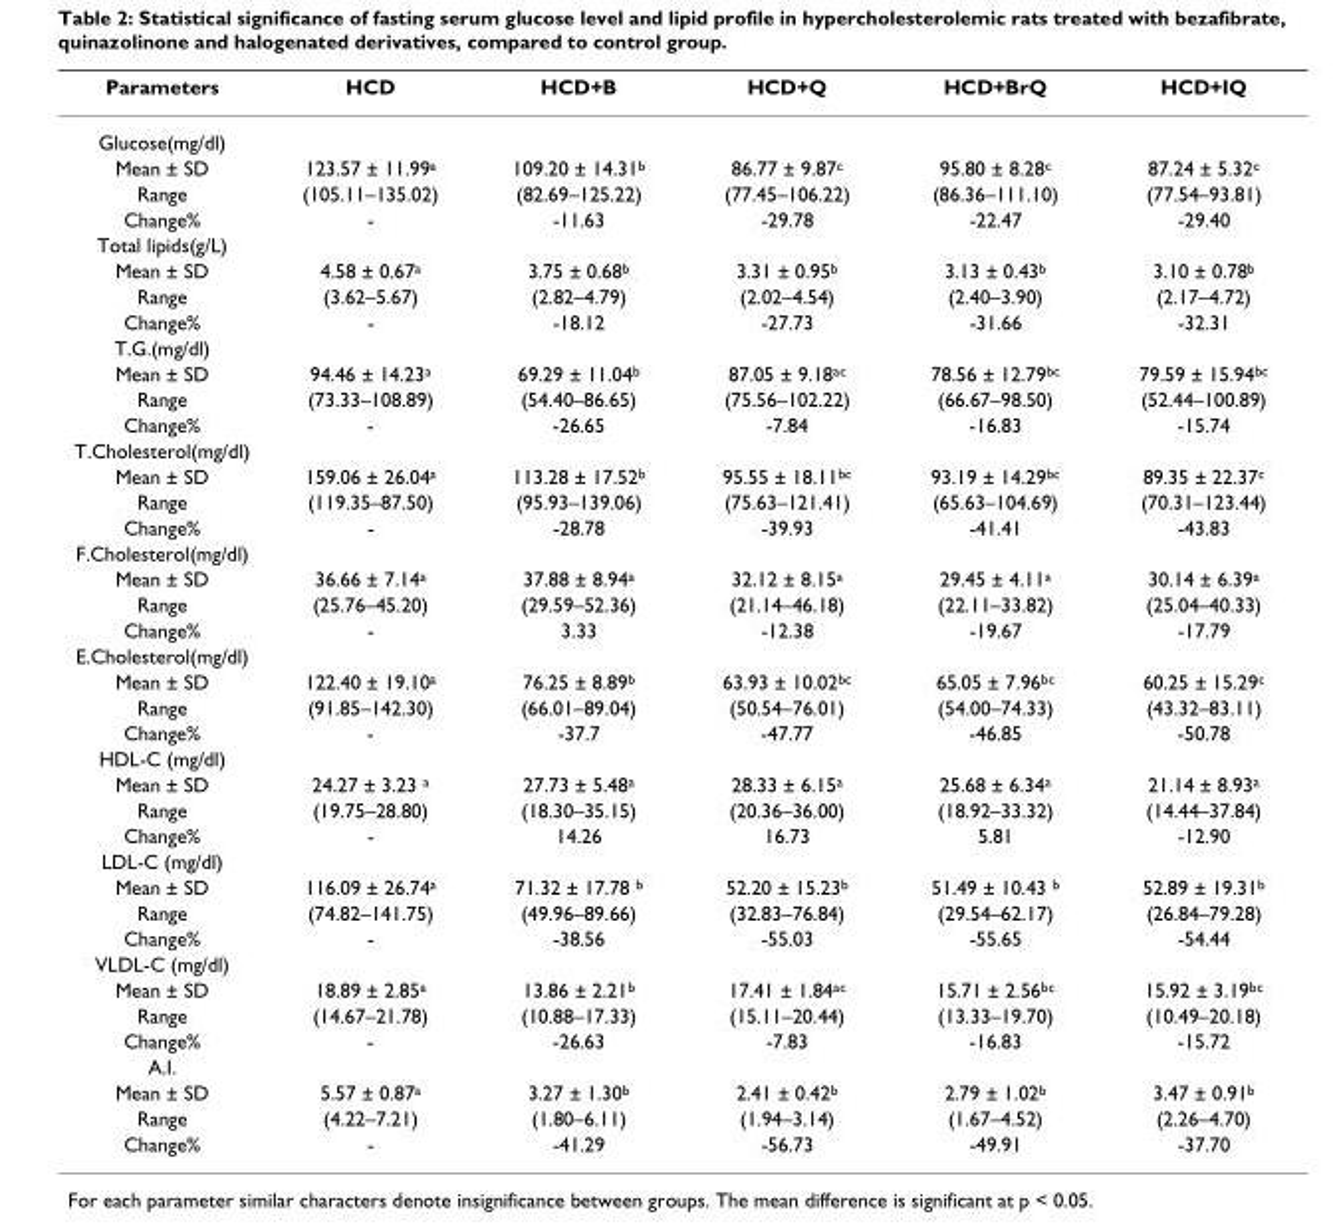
<table><thead><tr><td>Parameters</td><td>HCD</td><td>HCD+B</td><td>HCD+Q</td><td>HCD+BrQ</td><td>HCD+IQ</td></tr></thead><tbody><tr><td colspan="6">Glucose(mg/dl)</td></tr><tr><td>Mean ± SD</td><td>123.57 ± 11.99<sup>a</sup></td><td>109.20 ± 14.31<sup>b</sup></td><td>86.77 ± 9.87<sup>c</sup></td><td>95.80 ± 8.28<sup>c</sup></td><td>87.24 ± 5.32<sup>c</sup></td></tr><tr><td>Range</td><td>(105.11–135.02)</td><td>(82.69–125.22)</td><td>(77.45–106.22)</td><td>(86.36–111.10)</td><td>(77.54–93.81)</td></tr><tr><td>Change%</td><td>-</td><td>-11.63</td><td>-29.78</td><td>-22.47</td><td>-29.40</td></tr><tr><td colspan="6">Total lipids(g/L)</td></tr><tr><td>Mean ± SD</td><td>4.58 ± 0.67<sup>a</sup></td><td>3.75 ± 0.68<sup>b</sup></td><td>3.31 ± 0.95<sup>b</sup></td><td>3.13 ± 0.43<sup>b</sup></td><td>3.10 ± 0.78<sup>b</sup></td></tr><tr><td>Range</td><td>(3.62–5.67)</td><td>(2.82–4.79)</td><td>(2.02–4.54)</td><td>(2.40–3.90)</td><td>(2.17–4.72)</td></tr><tr><td>Change%</td><td>-</td><td>-18.12</td><td>-27.73</td><td>-31.66</td><td>-32.31</td></tr><tr><td colspan="6">T.G.(mg/dl)</td></tr><tr><td>Mean ± SD</td><td>94.46 ± 14.23<sup>a</sup></td><td>69.29 ± 11.04<sup>b</sup></td><td>87.05 ± 9.18<sup>ac</sup></td><td>78.56 ± 12.79<sup>bc</sup></td><td>79.59 ± 15.94<sup>bc</sup></td></tr><tr><td>Range</td><td>(73.33–108.89)</td><td>(54.40–86.65)</td><td>(75.56–102.22)</td><td>(66.67–98.50)</td><td>(52.44–100.89)</td></tr><tr><td>Change%</td><td>-</td><td>-26.65</td><td>-7.84</td><td>-16.83</td><td>-15.74</td></tr><tr><td colspan="6">T.Cholesterol(mg/dl)</td></tr><tr><td>Mean ± SD</td><td>159.06 ± 26.04<sup>a</sup></td><td>113.28 ± 17.52<sup>b</sup></td><td>95.55 ± 18.11<sup>bc</sup></td><td>93.19 ± 14.29<sup>bc</sup></td><td>89.35 ± 22.37<sup>c</sup></td></tr><tr><td>Range</td><td>(119.35–87.50)</td><td>(95.93–139.06)</td><td>(75.63–121.41)</td><td>(65.63–104.69)</td><td>(70.31–123.44)</td></tr><tr><td>Change%</td><td>-</td><td>-28.78</td><td>-39.93</td><td>-41.41</td><td>-43.83</td></tr><tr><td colspan="6">F.Cholesterol(mg/dl)</td></tr><tr><td>Mean ± SD</td><td>36.66 ± 7.14<sup>a</sup></td><td>37.88 ± 8.94<sup>a</sup></td><td>32.12 ± 8.15<sup>a</sup></td><td>29.45 ± 4.11<sup>a</sup></td><td>30.14 ± 6.39<sup>a</sup></td></tr><tr><td>Range</td><td>(25.76–45.20)</td><td>(29.59–52.36)</td><td>(21.14–46.18)</td><td>(22.11–33.82)</td><td>(25.04–40.33)</td></tr><tr><td>Change%</td><td>-</td><td>3.33</td><td>-12.38</td><td>-19.67</td><td>-17.79</td></tr><tr><td colspan="6">E.Cholesterol(mg/dl)</td></tr><tr><td>Mean ± SD</td><td>122.40 ± 19.10<sup>a</sup></td><td>76.25 ± 8.89<sup>b</sup></td><td>63.93 ± 10.02<sup>bc</sup></td><td>65.05 ± 7.96<sup>bc</sup></td><td>60.25 ± 15.29<sup>c</sup></td></tr><tr><td>Range</td><td>(91.85–142.30)</td><td>(66.01–89.04)</td><td>(50.54–76.01)</td><td>(54.00–74.33)</td><td>(43.32–83.11)</td></tr><tr><td>Change%</td><td>-</td><td>-37.7</td><td>-47.77</td><td>-46.85</td><td>-50.78</td></tr><tr><td colspan="6">HDL-C (mg/dl)</td></tr><tr><td>Mean ± SD</td><td>24.27 ± 3.23 <sup>a</sup></td><td>27.73 ± 5.48<sup>a</sup></td><td>28.33 ± 6.15<sup>a</sup></td><td>25.68 ± 6.34<sup>a</sup></td><td>21.14 ± 8.93<sup>a</sup></td></tr><tr><td>Range</td><td>(19.75–28.80)</td><td>(18.30–35.15)</td><td>(20.36–36.00)</td><td>(18.92–33.32)</td><td>(14.44–37.84)</td></tr><tr><td>Change%</td><td>-</td><td>14.26</td><td>16.73</td><td>5.81</td><td>-12.90</td></tr><tr><td colspan="6">LDL-C (mg/dl)</td></tr><tr><td>Mean ± SD</td><td>116.09 ± 26.74<sup>a</sup></td><td>71.32 ± 17.78 <sup>b</sup></td><td>52.20 ± 15.23<sup>b</sup></td><td>51.49 ± 10.43 <sup>b</sup></td><td>52.89 ± 19.31<sup>b</sup></td></tr><tr><td>Range</td><td>(74.82–141.75)</td><td>(49.96–89.66)</td><td>(32.83–76.84)</td><td>(29.54–62.17)</td><td>(26.84–79.28)</td></tr><tr><td>Change%</td><td>-</td><td>-38.56</td><td>-55.03</td><td>-55.65</td><td>-54.44</td></tr><tr><td colspan="6">VLDL-C (mg/dl)</td></tr><tr><td>Mean ± SD</td><td>18.89 ± 2.85<sup>a</sup></td><td>13.86 ± 2.21<sup>b</sup></td><td>17.41 ± 1.84<sup>ac</sup></td><td>15.71 ± 2.56<sup>bc</sup></td><td>15.92 ± 3.19<sup>bc</sup></td></tr><tr><td>Range</td><td>(14.67–21.78)</td><td>(10.88–17.33)</td><td>(15.11–20.44)</td><td>(13.33–19.70)</td><td>(10.49–20.18)</td></tr><tr><td>Change%</td><td>-</td><td>-26.63</td><td>-7.83</td><td>-16.83</td><td>-15.72</td></tr><tr><td colspan="6">A.I.</td></tr><tr><td>Mean ± SD</td><td>5.57 ± 0.87<sup>a</sup></td><td>3.27 ± 1.30<sup>b</sup></td><td>2.41 ± 0.42<sup>b</sup></td><td>2.79 ± 1.02<sup>b</sup></td><td>3.47 ± 0.91<sup>b</sup></td></tr><tr><td>Range</td><td>(4.22–7.21)</td><td>(1.80–6.11)</td><td>(1.94–3.14)</td><td>(1.67–4.52)</td><td>(2.26–4.70)</td></tr><tr><td>Change%</td><td>-</td><td>-41.29</td><td>-56.73</td><td>-49.91</td><td>-37.70</td></tr></tbody></table>